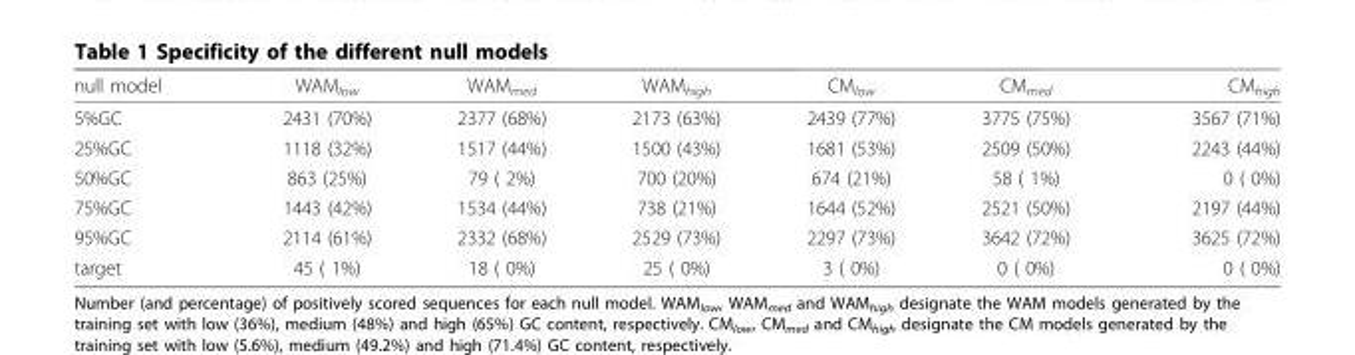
<table><thead><tr><td>null model</td><td>WAM<sub>low</sub></td><td>WAM<sub>med</sub></td><td>WAM<sub>high</sub></td><td>CM<sub>low</sub></td><td>CM<sub>med</sub></td><td>CM<sub>high</sub></td></tr></thead><tbody><tr><td>5%GC</td><td>2431 (70%)</td><td>2377 (68%)</td><td>2173 (63%)</td><td>2439 (77%)</td><td>3775 (75%)</td><td>3567 (71%)</td></tr><tr><td>25%GC</td><td>1118 (32%)</td><td>1517 (44%)</td><td>1500 (43%)</td><td>1681 (53%)</td><td>2509 (50%)</td><td>2243 (44%)</td></tr><tr><td>50%GC</td><td>863 (25%)</td><td>79 ( 2%)</td><td>700 (20%)</td><td>674 (21%)</td><td>58 ( 1%)</td><td>0 ( 0%)</td></tr><tr><td>75%GC</td><td>1443 (42%)</td><td>1534 (44%)</td><td>738 (21%)</td><td>1644 (52%)</td><td>2521 (50%)</td><td>2197 (44%)</td></tr><tr><td>95%GC</td><td>2114 (61%)</td><td>2332 (68%)</td><td>2529 (73%)</td><td>2297 (73%)</td><td>3642 (72%)</td><td>3625 (72%)</td></tr><tr><td>target</td><td>45 ( 1%)</td><td>18 ( 0%)</td><td>25 ( 0%)</td><td>3 ( 0%)</td><td>0 ( 0%)</td><td>0 ( 0%)</td></tr></tbody></table>